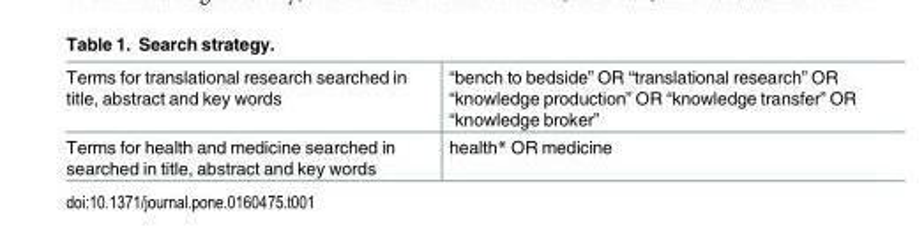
<table><tbody><tr><td>Terms for translational research searched in title, abstract and key words</td><td>“bench to bedside” OR “translational research” OR “knowledge production” OR “knowledge transfer” OR “knowledge broker”</td></tr><tr><td>Terms for health and medicine searched in searched in title, abstract and key words</td><td>health* OR medicine</td></tr></tbody></table>